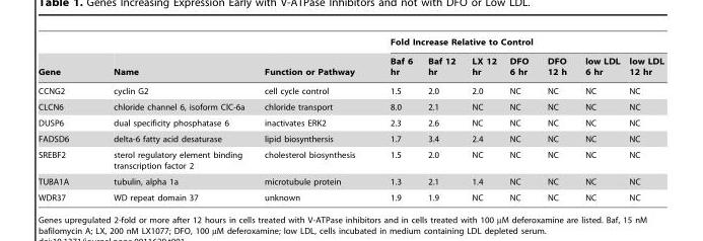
<table><thead><tr><td rowspan="2">Gene</td><td rowspan="2">Name</td><td rowspan="2">Function or Pathway</td><td colspan="7">Fold Increase Relative to Control</td></tr><tr><td>Baf 6 hr</td><td>Baf 12 hr</td><td>LX 12 hr</td><td>DFO 6 hr</td><td>DFO 12 h</td><td>low LDL 6 hr</td><td>low LDL 12 hr</td></tr></thead><tbody><tr><td>CCNG2</td><td>cyclin G2</td><td>cell cycle control</td><td>1.5</td><td>2.0</td><td>2.0</td><td>NC</td><td>NC</td><td>NC</td><td>NC</td></tr><tr><td>CLCN6</td><td>chloride channel 6, isoform ClC-6a</td><td>chloride transport</td><td>8.0</td><td>2.1</td><td>NC</td><td>NC</td><td>NC</td><td>NC</td><td>NC</td></tr><tr><td>DUSP6</td><td>dual specificity phosphatase 6</td><td>inactivates ERK2</td><td>2.3</td><td>2.6</td><td>NC</td><td>NC</td><td>NC</td><td>NC</td><td>NC</td></tr><tr><td>FADSD6</td><td>delta-6 fatty acid desaturase</td><td>lipid biosynthersis</td><td>1.7</td><td>3.4</td><td>2.4</td><td>NC</td><td>NC</td><td>NC</td><td>NC</td></tr><tr><td>SREBF2</td><td>sterol regulatory element binding transcription factor 2</td><td>cholesterol biosynthesis</td><td>1.5</td><td>2.0</td><td>NC</td><td>NC</td><td>NC</td><td>NC</td><td>NC</td></tr><tr><td>TUBA1A</td><td>tubulin, alpha 1a</td><td>microtubule protein</td><td>1.3</td><td>2.1</td><td>1.4</td><td>NC</td><td>NC</td><td>NC</td><td>NC</td></tr><tr><td>WDR37</td><td>WD repeat domain 37</td><td>unknown</td><td>1.9</td><td>1.9</td><td>NC</td><td>NC</td><td>NC</td><td>NC</td><td>NC</td></tr></tbody></table>